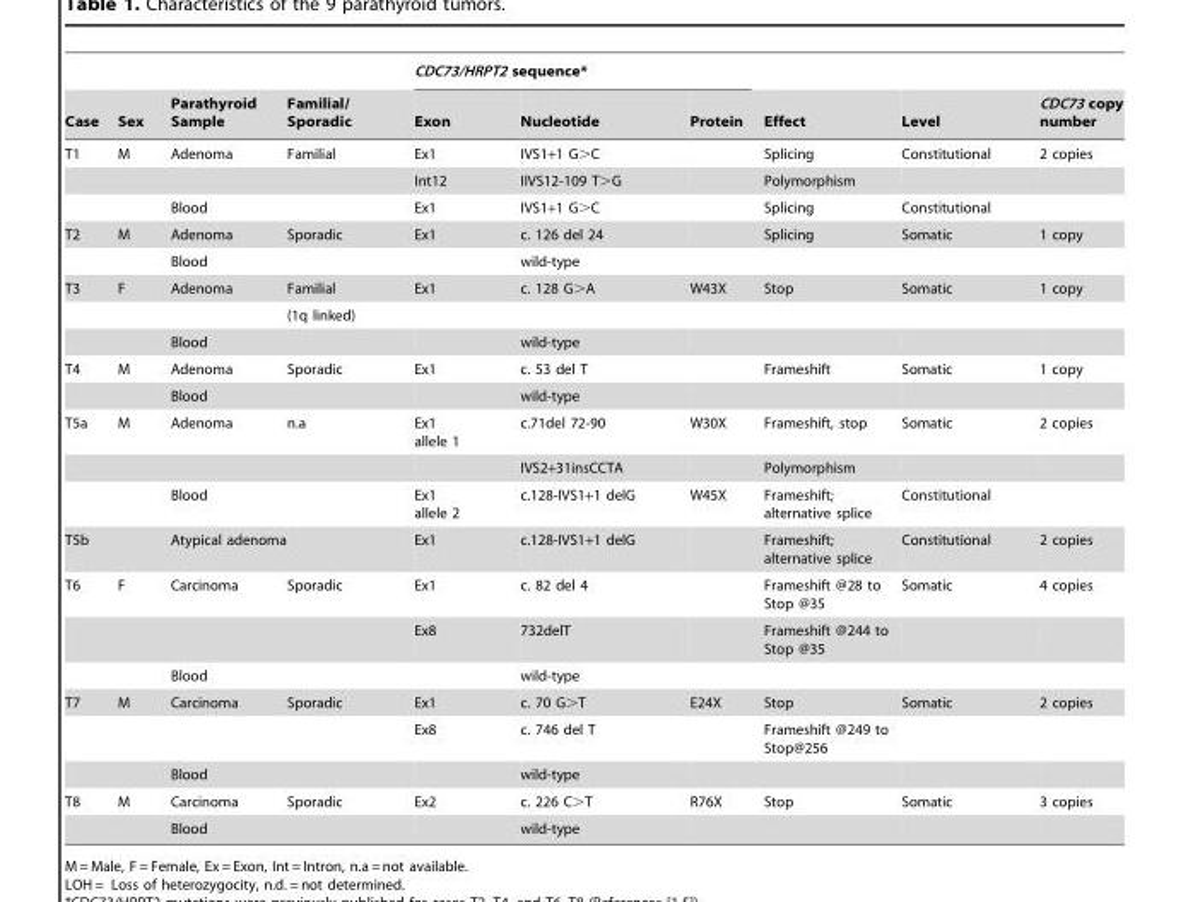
<table><thead><tr><td rowspan="2">Case</td><td rowspan="2">Sex</td><td rowspan="2">Parathyroid Sample</td><td rowspan="2">Familial/ Sporadic</td><td colspan="3">CDC73/HRPT2 sequence*</td><td rowspan="2">Effect</td><td rowspan="2">Level</td><td rowspan="2">CDC73 copy number</td></tr><tr><td>Exon</td><td>Nucleotide</td><td>Protein</td></tr></thead><tbody><tr><td rowspan="3">T1</td><td>M</td><td>Adenoma</td><td>Familial</td><td>Ex1</td><td>IVS1+1 G&gt;C</td><td></td><td>Splicing</td><td>Constitutional</td><td>2 copies</td></tr><tr><td></td><td></td><td></td><td>Int12</td><td>IIVS12-109 T&gt;G</td><td></td><td>Polymorphism</td><td></td><td></td></tr><tr><td></td><td>Blood</td><td></td><td>Ex1</td><td>IVS1+1 G&gt;C</td><td></td><td>Splicing</td><td>Constitutional</td><td></td></tr><tr><td rowspan="2">T2</td><td>M</td><td>Adenoma</td><td>Sporadic</td><td>Ex1</td><td>c. 126 del 24</td><td></td><td>Splicing</td><td>Somatic</td><td>1 copy</td></tr><tr><td></td><td>Blood</td><td></td><td></td><td>wild-type</td><td></td><td></td><td></td><td></td></tr><tr><td rowspan="3">T3</td><td>F</td><td>Adenoma</td><td>Familial</td><td>Ex1</td><td>c. 128 G&gt;A</td><td>W43X</td><td>Stop</td><td>Somatic</td><td>1 copy</td></tr><tr><td></td><td></td><td>(1q linked)</td><td></td><td></td><td></td><td></td><td></td><td></td></tr><tr><td></td><td>Blood</td><td></td><td></td><td>wild-type</td><td></td><td></td><td></td><td></td></tr><tr><td rowspan="2">T4</td><td>M</td><td>Adenoma</td><td>Sporadic</td><td>Ex1</td><td>c. 53 del T</td><td></td><td>Frameshift</td><td>Somatic</td><td>1 copy</td></tr><tr><td></td><td>Blood</td><td></td><td></td><td>wild-type</td><td></td><td></td><td></td><td></td></tr><tr><td rowspan="3">T5a</td><td>M</td><td>Adenoma</td><td>n.a</td><td>Ex1 allele 1</td><td>c.71del 72-90</td><td>W30X</td><td>Frameshift, stop</td><td>Somatic</td><td>2 copies</td></tr><tr><td></td><td></td><td></td><td></td><td>IVS2+31insCCTA</td><td></td><td>Polymorphism</td><td></td><td></td></tr><tr><td></td><td>Blood</td><td></td><td>Ex1 allele 2</td><td>c.128-IVS1+1 delG</td><td>W45X</td><td>Frameshift; alternative splice</td><td>Constitutional</td><td></td></tr><tr><td>T5b</td><td></td><td>Atypical adenoma</td><td></td><td>Ex1</td><td>c.128-IVS1+1 delG</td><td></td><td>Frameshift; alternative splice</td><td>Constitutional</td><td>2 copies</td></tr><tr><td rowspan="3">T6</td><td>F</td><td>Carcinoma</td><td>Sporadic</td><td>Ex1</td><td>c. 82 del 4</td><td></td><td>Frameshift @28 to Stop @35</td><td>Somatic</td><td>4 copies</td></tr><tr><td></td><td></td><td></td><td>Ex8</td><td>732delT</td><td></td><td>Frameshift @244 to Stop @35</td><td></td><td></td></tr><tr><td></td><td>Blood</td><td></td><td></td><td>wild-type</td><td></td><td></td><td></td><td></td></tr><tr><td rowspan="3">T7</td><td>M</td><td>Carcinoma</td><td>Sporadic</td><td>Ex1</td><td>c. 70 G&gt;T</td><td>E24X</td><td>Stop</td><td>Somatic</td><td>2 copies</td></tr><tr><td></td><td></td><td></td><td>Ex8</td><td>c. 746 del T</td><td></td><td>Frameshift @249 to Stop@256</td><td></td><td></td></tr><tr><td></td><td>Blood</td><td></td><td></td><td>wild-type</td><td></td><td></td><td></td><td></td></tr><tr><td rowspan="2">T8</td><td>M</td><td>Carcinoma</td><td>Sporadic</td><td>Ex2</td><td>c. 226 C&gt;T</td><td>R76X</td><td>Stop</td><td>Somatic</td><td>3 copies</td></tr><tr><td></td><td>Blood</td><td></td><td></td><td>wild-type</td><td></td><td></td><td></td><td></td></tr></tbody></table>